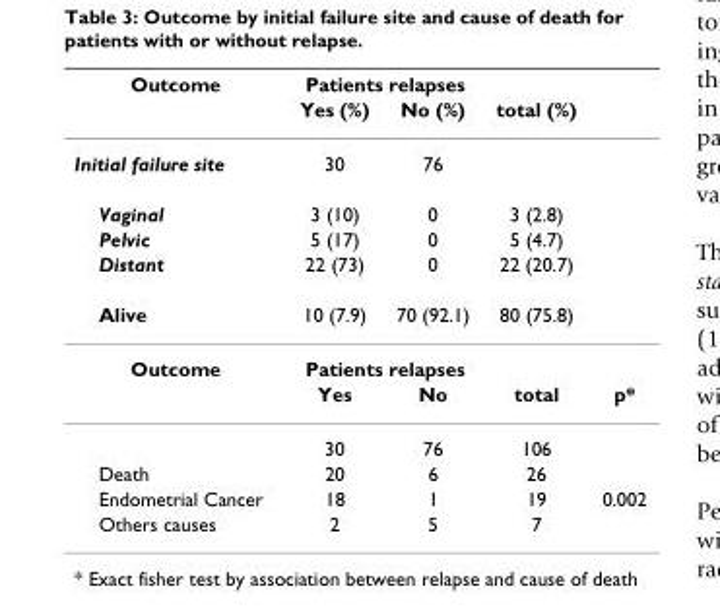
<table><thead><tr><td rowspan="2">Outcome</td><td colspan="2">Patients relapses</td><td rowspan="2">total (%)</td><td rowspan="2"></td></tr><tr><td>Yes (%)</td><td>No (%)</td></tr></thead><tbody><tr><td>Initial failure site</td><td>30</td><td>76</td><td></td><td></td></tr><tr><td>Vaginal</td><td>3 (10)</td><td>0</td><td>3 (2.8)</td><td></td></tr><tr><td>Pelvic</td><td>5 (17)</td><td>0</td><td>5 (4.7)</td><td></td></tr><tr><td>Distant</td><td>22 (73)</td><td>0</td><td>22 (20.7)</td><td></td></tr><tr><td>Alive</td><td>10 (7.9)</td><td>70 (92.1)</td><td>80 (75.8)</td><td></td></tr><tr><td rowspan="3">Outcome</td><td colspan="2">Patients relapses</td><td></td><td></td></tr><tr><td>Yes</td><td>No</td><td>total</td><td>p*</td></tr><tr><td>30</td><td>76</td><td>106</td><td></td></tr><tr><td>Death</td><td>20</td><td>6</td><td>26</td><td></td></tr><tr><td>Endometrial Cancer</td><td>18</td><td>1</td><td>19</td><td>0.002</td></tr><tr><td>Others causes</td><td>2</td><td>5</td><td>7</td><td></td></tr></tbody></table>